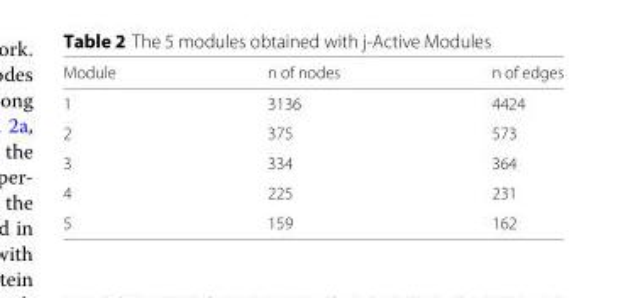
<table><thead><tr><td>Module</td><td>n of nodes</td><td>n of edges</td></tr></thead><tbody><tr><td>1</td><td>3136</td><td>4424</td></tr><tr><td>2</td><td>375</td><td>573</td></tr><tr><td>3</td><td>334</td><td>364</td></tr><tr><td>4</td><td>225</td><td>231</td></tr><tr><td>5</td><td>159</td><td>162</td></tr></tbody></table>